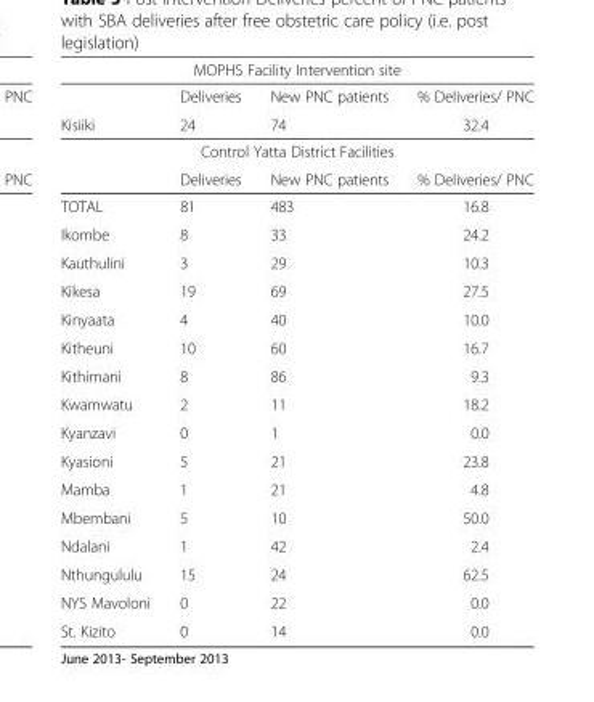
<table><thead><tr><td colspan="4">MOPHS Facility Intervention site</td></tr><tr><td></td><td>Deliveries</td><td>New PNC patients</td><td>% Deliveries/ PNC</td></tr></thead><tbody><tr><td>Kisiiki</td><td>24</td><td>74</td><td>32.4</td></tr><tr><td colspan="4">Control Yatta District Facilities</td></tr><tr><td></td><td>Deliveries</td><td>New PNC patients</td><td>% Deliveries/ PNC</td></tr><tr><td>TOTAL</td><td>81</td><td>483</td><td>16.8</td></tr><tr><td>Ikombe</td><td>8</td><td>33</td><td>24.2</td></tr><tr><td>Kauthulini</td><td>3</td><td>29</td><td>10.3</td></tr><tr><td>Kikesa</td><td>19</td><td>69</td><td>27.5</td></tr><tr><td>Kinyaata</td><td>4</td><td>40</td><td>10.0</td></tr><tr><td>Kitheuni</td><td>10</td><td>60</td><td>16.7</td></tr><tr><td>Kithimani</td><td>8</td><td>86</td><td>9.3</td></tr><tr><td>Kwamwatu</td><td>2</td><td>11</td><td>18.2</td></tr><tr><td>Kyanzavi</td><td>0</td><td>1</td><td>0.0</td></tr><tr><td>Kyasioni</td><td>5</td><td>21</td><td>23.8</td></tr><tr><td>Mamba</td><td>1</td><td>21</td><td>4.8</td></tr><tr><td>Mbembani</td><td>5</td><td>10</td><td>50.0</td></tr><tr><td>Ndalani</td><td>1</td><td>42</td><td>2.4</td></tr><tr><td>Nthungululu</td><td>15</td><td>24</td><td>62.5</td></tr><tr><td>NYS Mavoloni</td><td>0</td><td>22</td><td>0.0</td></tr><tr><td>St. Kizito</td><td>0</td><td>14</td><td>0.0</td></tr></tbody></table>